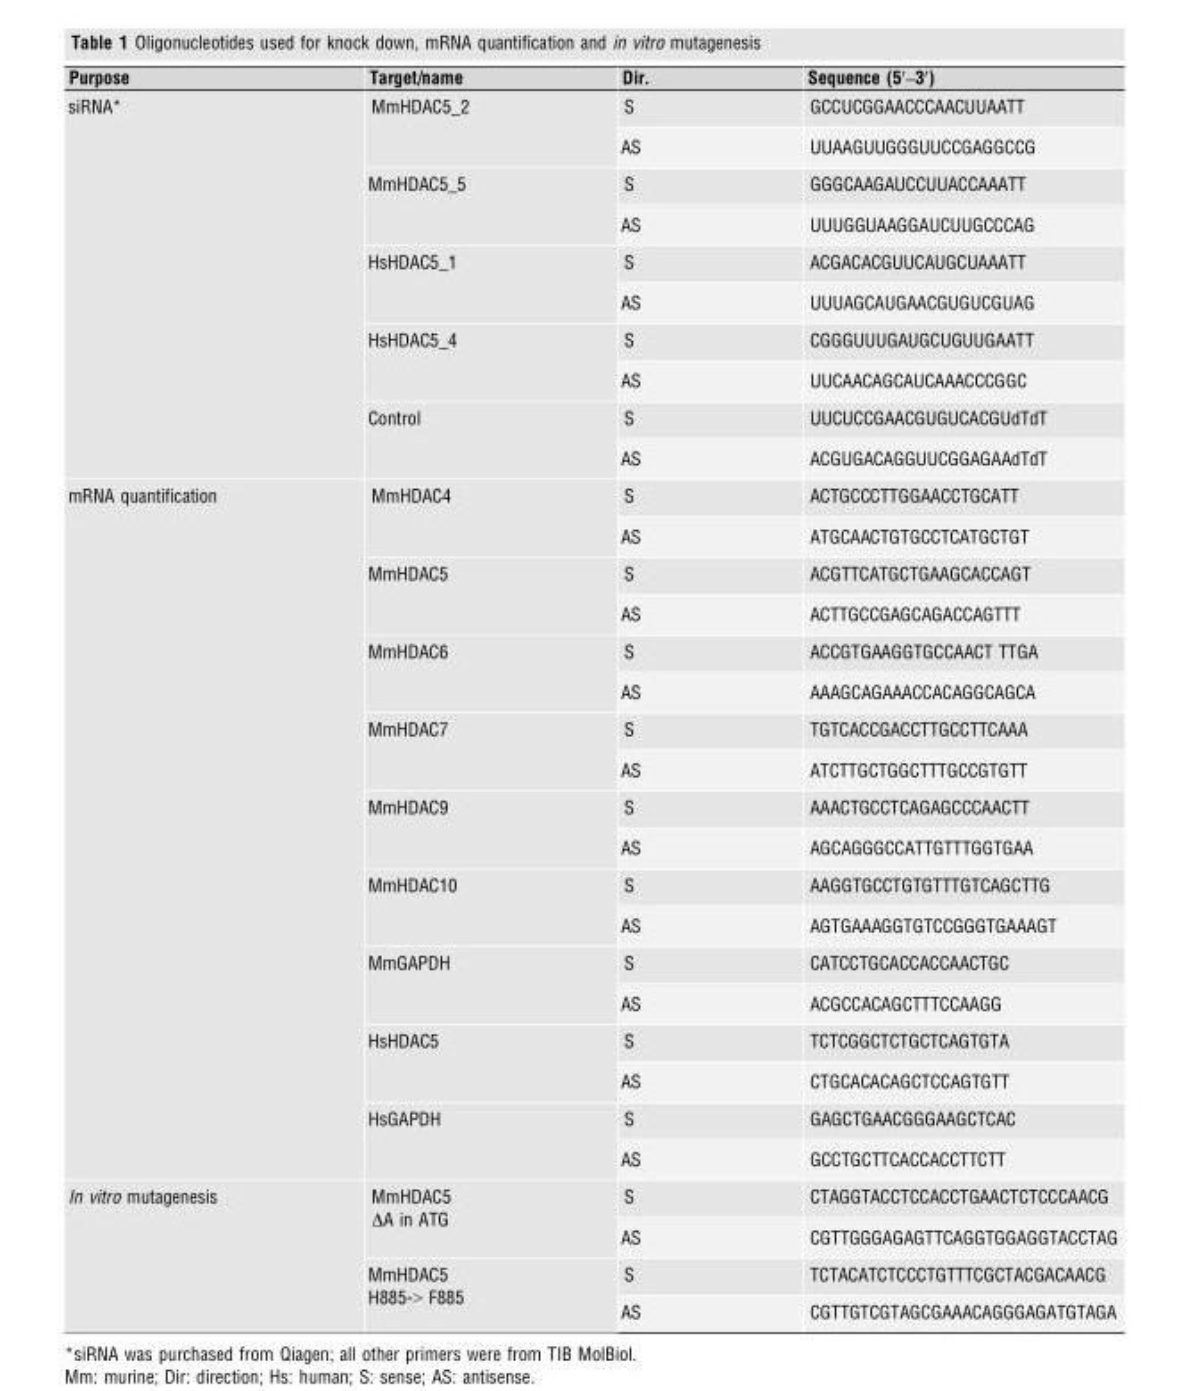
<table><thead><tr><td>Purpose</td><td>Target/name</td><td>Dir.</td><td>Sequence (5′–3′)</td></tr></thead><tbody><tr><td rowspan="10">siRNA*</td><td rowspan="2">MmHDAC5_2</td><td>S</td><td>GCCUCGGAACCCAACUUAATT</td></tr><tr><td>AS</td><td>UUAAGUUGGGUUCCGAGGCCG</td></tr><tr><td rowspan="2">MmHDAC5_5</td><td>S</td><td>GGGCAAGAUCCUUACCAAATT</td></tr><tr><td>AS</td><td>UUUGGUAAGGAUCUUGCCCAG</td></tr><tr><td rowspan="2">HsHDAC5_1</td><td>S</td><td>ACGACACGUUCAUGCUAAATT</td></tr><tr><td>AS</td><td>UUUAGCAUGAACGUGUCGUAG</td></tr><tr><td rowspan="2">HsHDAC5_4</td><td>S</td><td>CGGGUUUGAUGCUGUUGAATT</td></tr><tr><td>AS</td><td>UUCAACAGCAUCAAACCCGGC</td></tr><tr><td rowspan="2">Control</td><td>S</td><td>UUCUCCGAACGUGUCACGUdTdT</td></tr><tr><td>AS</td><td>ACGUGACAGGUUCGGAGAAdTdT</td></tr><tr><td rowspan="18">mRNA quantification</td><td rowspan="2">MmHDAC4</td><td>S</td><td>ACTGCCCTTGGAACCTGCATT</td></tr><tr><td>AS</td><td>ATGCAACTGTGCCTCATGCTGT</td></tr><tr><td rowspan="2">MmHDAC5</td><td>S</td><td>ACGTTCATGCTGAAGCACCAGT</td></tr><tr><td>AS</td><td>ACTTGCCGAGCAGACCAGTTT</td></tr><tr><td rowspan="2">MmHDAC6</td><td>S</td><td>ACCGTGAAGGTGCCAACT TTGA</td></tr><tr><td>AS</td><td>AAAGCAGAAACCACAGGCAGCA</td></tr><tr><td rowspan="2">MmHDAC7</td><td>S</td><td>TGTCACCGACCTTGCCTTCAAA</td></tr><tr><td>AS</td><td>ATCTTGCTGGCTTTGCCGTGTT</td></tr><tr><td rowspan="2">MmHDAC9</td><td>S</td><td>AAACTGCCTCAGAGCCCAACTT</td></tr><tr><td>AS</td><td>AGCAGGGCCATTGTTTGGTGAA</td></tr><tr><td rowspan="2">MmHDAC10</td><td>S</td><td>AAGGTGCCTGTGTTTGTCAGCTTG</td></tr><tr><td>AS</td><td>AGTGAAAGGTGTCCGGGTGAAAGT</td></tr><tr><td rowspan="2">MmGAPDH</td><td>S</td><td>CATCCTGCACCACCAACTGC</td></tr><tr><td>AS</td><td>ACGCCACAGCTTTCCAAGG</td></tr><tr><td rowspan="2">HsHDAC5</td><td>S</td><td>TCTCGGCTCTGCTCAGTGTA</td></tr><tr><td>AS</td><td>CTGCACACAGCTCCAGTGTT</td></tr><tr><td rowspan="2">HsGAPDH</td><td>S</td><td>GAGCTGAACGGGAAGCTCAC</td></tr><tr><td>AS</td><td>GCCTGCTTCACCACCTTCTT</td></tr><tr><td rowspan="4">In vitro mutagenesis</td><td rowspan="2">MmHDAC5 ΔA in ATG</td><td>S</td><td>CTAGGTACCTCCACCTGAACTCTCCCAACG</td></tr><tr><td>AS</td><td>CGTTGGGAGAGTTCAGGTGGAGGTACCTAG</td></tr><tr><td rowspan="2">MmHDAC5 H885-&gt; F885</td><td>S</td><td>TCTACATCTCCCTGTTTCGCTACGACAACG</td></tr><tr><td>AS</td><td>CGTTGTCGTAGCGAAACAGGGAGATGTAGA</td></tr></tbody></table>